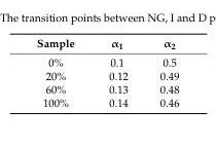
<table><thead><tr><td>Sample</td><td>α<sub>1</sub></td><td>α<sub>2</sub></td></tr></thead><tbody><tr><td>0%</td><td>0.1</td><td>0.5</td></tr><tr><td>20%</td><td>0.12</td><td>0.49</td></tr><tr><td>60%</td><td>0.13</td><td>0.48</td></tr><tr><td>100%</td><td>0.14</td><td>0.46</td></tr></tbody></table>